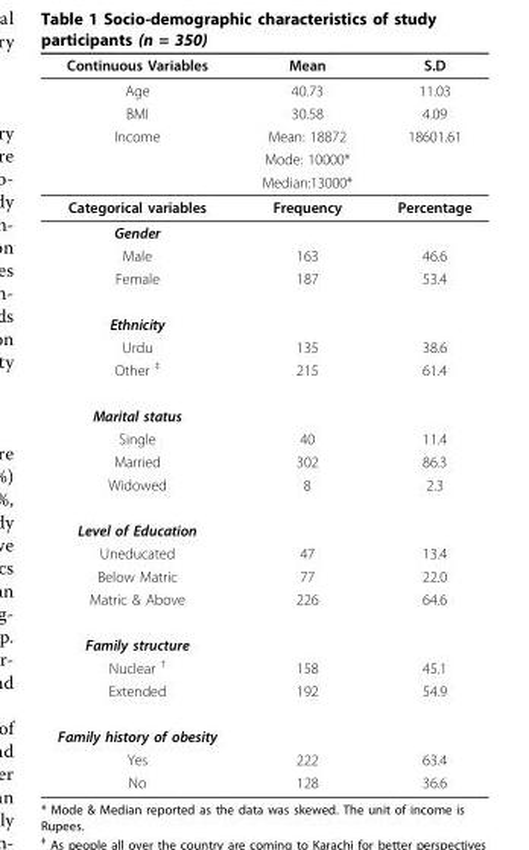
<table><thead><tr><td>Continuous Variables</td><td>Mean</td><td>S.D</td></tr></thead><tbody><tr><td>Age</td><td>40.73</td><td>11.03</td></tr><tr><td>BMI</td><td>30.58</td><td>4.09</td></tr><tr><td rowspan="3">Income</td><td>Mean: 18872</td><td>18601.61</td></tr><tr><td>Mode: 10000*</td><td></td></tr><tr><td>Median:13000*</td><td></td></tr><tr><td>Categorical variables</td><td>Frequency</td><td>Percentage</td></tr><tr><td colspan="3">Gender</td></tr><tr><td>Male</td><td>163</td><td>46.6</td></tr><tr><td>Female</td><td>187</td><td>53.4</td></tr><tr><td colspan="3">Ethnicity</td></tr><tr><td>Urdu</td><td>135</td><td>38.6</td></tr><tr><td>Other <sup>‡</sup></td><td>215</td><td>61.4</td></tr><tr><td colspan="3">Marital status</td></tr><tr><td>Single</td><td>40</td><td>11.4</td></tr><tr><td>Married</td><td>302</td><td>86.3</td></tr><tr><td>Widowed</td><td>8</td><td>2.3</td></tr><tr><td colspan="3">Level of Education</td></tr><tr><td>Uneducated</td><td>47</td><td>13.4</td></tr><tr><td>Below Matric</td><td>77</td><td>22.0</td></tr><tr><td>Matric &amp; Above</td><td>226</td><td>64.6</td></tr><tr><td colspan="3">Family structure</td></tr><tr><td>Nuclear <sup>†</sup></td><td>158</td><td>45.1</td></tr><tr><td>Extended</td><td>192</td><td>54.9</td></tr><tr><td colspan="3">Family history of obesity</td></tr><tr><td>Yes</td><td>222</td><td>63.4</td></tr><tr><td>No</td><td>128</td><td>36.6</td></tr></tbody></table>